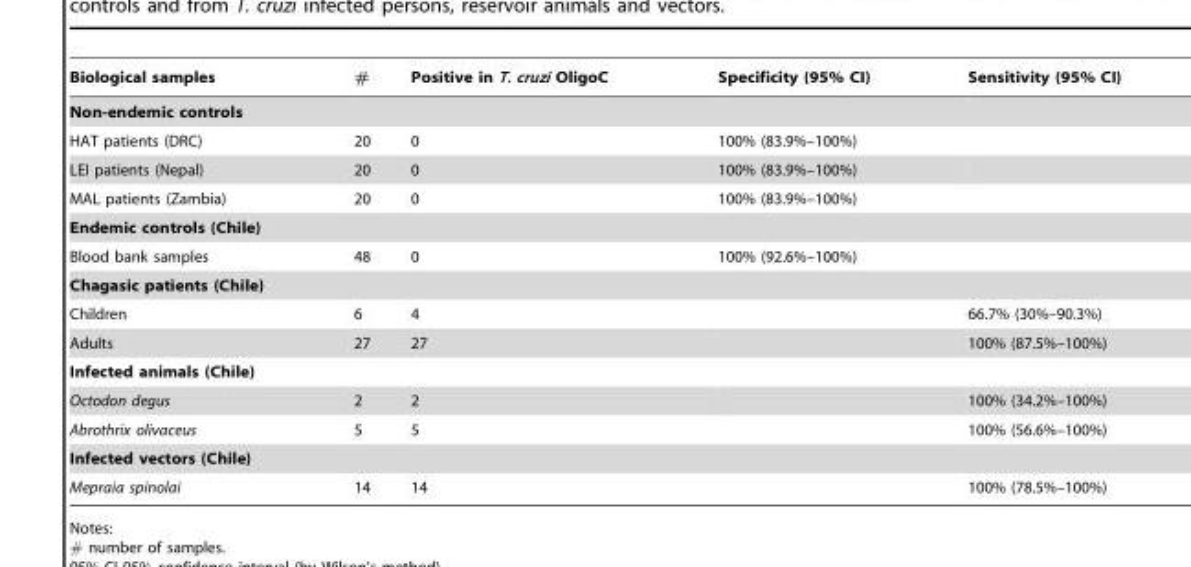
<table><thead><tr><td>Biological samples</td><td>#</td><td>Positive in T. cruzi OligoC</td><td>Specificity (95% CI)</td><td>Sensitivity (95% CI)</td></tr></thead><tbody><tr><td colspan="5">Non-endemic controls</td></tr><tr><td>HAT patients (DRC)</td><td>20</td><td>0</td><td>100% (83.9%–100%)</td><td></td></tr><tr><td>LEI patients (Nepal)</td><td>20</td><td>0</td><td>100% (83.9%–100%)</td><td></td></tr><tr><td>MAL patients (Zambia)</td><td>20</td><td>0</td><td>100% (83.9%–100%)</td><td></td></tr><tr><td colspan="5">Endemic controls (Chile)</td></tr><tr><td>Blood bank samples</td><td>48</td><td>0</td><td>100% (92.6%–100%)</td><td></td></tr><tr><td colspan="5">Chagasic patients (Chile)</td></tr><tr><td>Children</td><td>6</td><td>4</td><td></td><td>66.7% (30%–90.3%)</td></tr><tr><td>Adults</td><td>27</td><td>27</td><td></td><td>100% (87.5%–100%)</td></tr><tr><td colspan="5">Infected animals (Chile)</td></tr><tr><td>Octodon degus</td><td>2</td><td>2</td><td></td><td>100% (34.2%–100%)</td></tr><tr><td>Abrothrix olivaceus</td><td>5</td><td>5</td><td></td><td>100% (56.6%–100%)</td></tr><tr><td colspan="5">Infected vectors (Chile)</td></tr><tr><td>Mepraia spinolai</td><td>14</td><td>14</td><td></td><td>100% (78.5%–100%)</td></tr></tbody></table>